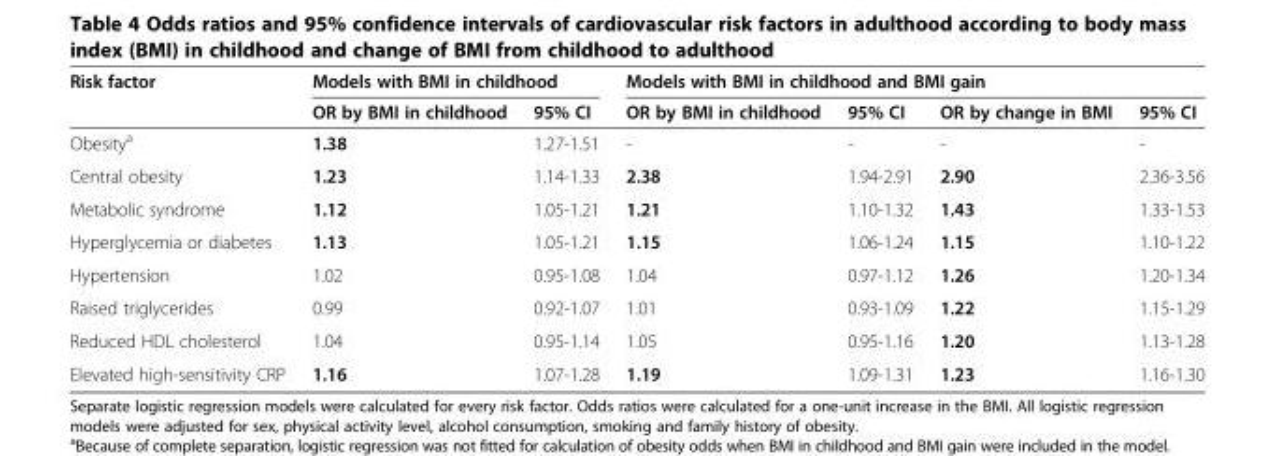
<table><thead><tr><td rowspan="2">Risk factor</td><td colspan="2">Models with BMI in childhood</td><td colspan="4">Models with BMI in childhood and BMI gain</td></tr><tr><td>OR by BMI in childhood</td><td>95% CI</td><td>OR by BMI in childhood</td><td>95% CI</td><td>OR by change in BMI</td><td>95% CI</td></tr></thead><tbody><tr><td>Obesity<sup>a</sup></td><td>1.38</td><td>1.27-1.51</td><td>-</td><td>-</td><td>-</td><td>-</td></tr><tr><td>Central obesity</td><td>1.23</td><td>1.14-1.33</td><td>2.38</td><td>1.94-2.91</td><td>2.90</td><td>2.36-3.56</td></tr><tr><td>Metabolic syndrome</td><td>1.12</td><td>1.05-1.21</td><td>1.21</td><td>1.10-1.32</td><td>1.43</td><td>1.33-1.53</td></tr><tr><td>Hyperglycemia or diabetes</td><td>1.13</td><td>1.05-1.21</td><td>1.15</td><td>1.06-1.24</td><td>1.15</td><td>1.10-1.22</td></tr><tr><td>Hypertension</td><td>1.02</td><td>0.95-1.08</td><td>1.04</td><td>0.97-1.12</td><td>1.26</td><td>1.20-1.34</td></tr><tr><td>Raised triglycerides</td><td>0.99</td><td>0.92-1.07</td><td>1.01</td><td>0.93-1.09</td><td>1.22</td><td>1.15-1.29</td></tr><tr><td>Reduced HDL cholesterol</td><td>1.04</td><td>0.95-1.14</td><td>1.05</td><td>0.95-1.16</td><td>1.20</td><td>1.13-1.28</td></tr><tr><td>Elevated high-sensitivity CRP</td><td>1.16</td><td>1.07-1.28</td><td>1.19</td><td>1.09-1.31</td><td>1.23</td><td>1.16-1.30</td></tr></tbody></table>